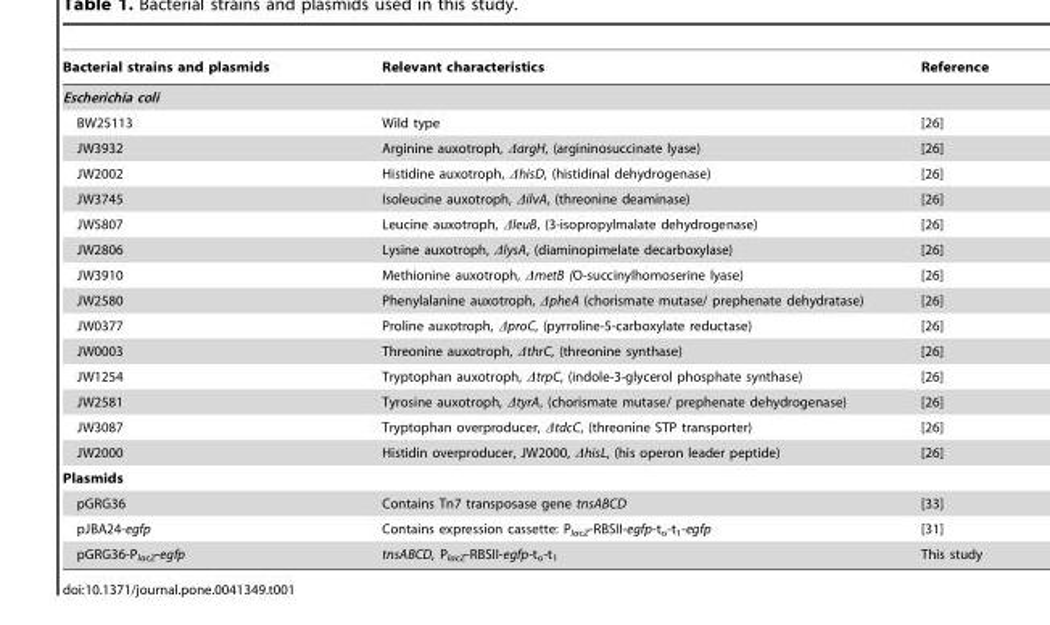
<table><thead><tr><td>Bacterial strains and plasmids</td><td>Relevant characteristics</td><td>Reference</td></tr></thead><tbody><tr><td colspan="3">Escherichia coli</td></tr><tr><td>BW25113</td><td>Wild type</td><td>[26]</td></tr><tr><td>JW3932</td><td>Arginine auxotroph, ΔargH, (argininosuccinate lyase)</td><td>[26]</td></tr><tr><td>JW2002</td><td>Histidine auxotroph, ΔhisD, (histidinal dehydrogenase)</td><td>[26]</td></tr><tr><td>JW3745</td><td>Isoleucine auxotroph, ΔilvA, (threonine deaminase)</td><td>[26]</td></tr><tr><td>JW5807</td><td>Leucine auxotroph, ΔleuB, (3-isopropylmalate dehydrogenase)</td><td>[26]</td></tr><tr><td>JW2806</td><td>Lysine auxotroph, ΔlysA, (diaminopimelate decarboxylase)</td><td>[26]</td></tr><tr><td>JW3910</td><td>Methionine auxotroph, ΔmetB (O-succinylhomoserine lyase)</td><td>[26]</td></tr><tr><td>JW2580</td><td>Phenylalanine auxotroph, ΔpheA (chorismate mutase/ prephenate dehydratase)</td><td>[26]</td></tr><tr><td>JW0377</td><td>Proline auxotroph, ΔproC, (pyrroline-5-carboxylate reductase)</td><td>[26]</td></tr><tr><td>JW0003</td><td>Threonine auxotroph, ΔthrC, (threonine synthase)</td><td>[26]</td></tr><tr><td>JW1254</td><td>Tryptophan auxotroph, ΔtrpC, (indole-3-glycerol phosphate synthase)</td><td>[26]</td></tr><tr><td>JW2581</td><td>Tyrosine auxotroph, ΔtyrA, (chorismate mutase/ prephenate dehydrogenase)</td><td>[26]</td></tr><tr><td>JW3087</td><td>Tryptophan overproducer, ΔtdcC, (threonine STP transporter)</td><td>[26]</td></tr><tr><td>JW2000</td><td>Histidin overproducer, JW2000, ΔhisL, (his operon leader peptide)</td><td>[26]</td></tr><tr><td colspan="3">Plasmids</td></tr><tr><td>pGRG36</td><td>Contains Tn7 transposase gene tnsABCD</td><td>[33]</td></tr><tr><td>pJBA24-egfp</td><td>Contains expression cassette: P<sub>lacZ</sub>-RBSII-egfp-t<sub>o</sub>-t<sub>1</sub>-egfp</td><td>[31]</td></tr><tr><td>pGRG36-P<sub>lacZ</sub>-egfp</td><td>tnsABCD, P<sub>lacZ</sub>-RBSII-egfp-t<sub>o</sub>-t<sub>1</sub></td><td>This study</td></tr></tbody></table>